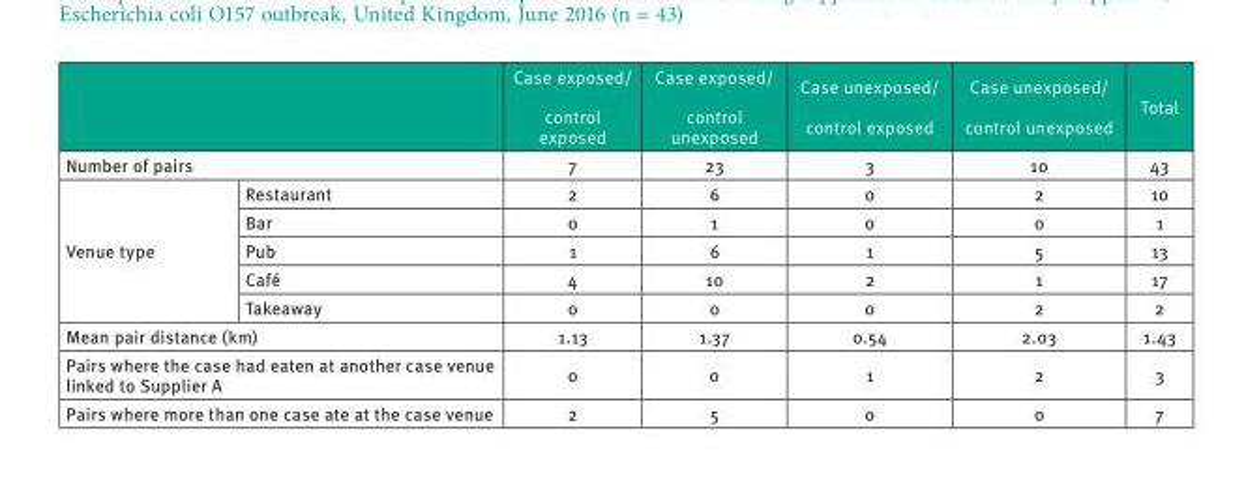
<table><thead><tr><td></td><td></td><td>Case exposed/ control exposed</td><td>Case exposed/ control unexposed</td><td>Case unexposed/ control exposed</td><td>Case unexposed/ control unexposed</td><td>Total</td></tr></thead><tbody><tr><td colspan="2">Number of pairs</td><td>7</td><td>23</td><td>3</td><td>10</td><td>43</td></tr><tr><td rowspan="5">Venue type</td><td>Restaurant</td><td>2</td><td>6</td><td>0</td><td>2</td><td>10</td></tr><tr><td>Bar</td><td>0</td><td>1</td><td>0</td><td>0</td><td>1</td></tr><tr><td>Pub</td><td>1</td><td>6</td><td>1</td><td>5</td><td>13</td></tr><tr><td>Café</td><td>4</td><td>10</td><td>2</td><td>1</td><td>17</td></tr><tr><td>Takeaway</td><td>0</td><td>0</td><td>0</td><td>2</td><td>2</td></tr><tr><td colspan="2">Mean pair distance (km)</td><td>1.13</td><td>1.37</td><td>0.54</td><td>2.03</td><td>1.43</td></tr><tr><td colspan="2">Pairs where the case had eaten at another case venue linked to Supplier A</td><td>0</td><td>0</td><td>1</td><td>2</td><td>3</td></tr><tr><td colspan="2">Pairs where more than one case ate at the case venue</td><td>2</td><td>5</td><td>0</td><td>0</td><td>7</td></tr></tbody></table>